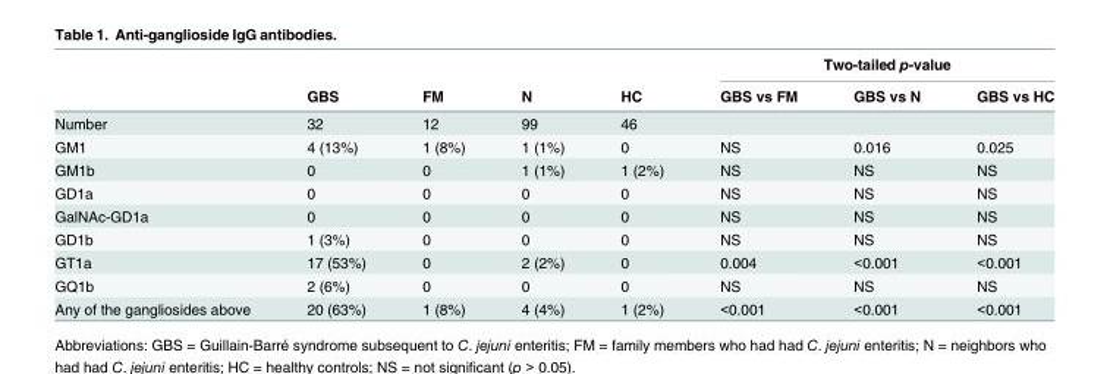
<table><thead><tr><td rowspan="2"></td><td rowspan="2">GBS</td><td rowspan="2">FM</td><td rowspan="2">N</td><td rowspan="2">HC</td><td colspan="3">Two-tailed p-value</td></tr><tr><td>GBS vs FM</td><td>GBS vs N</td><td>GBS vs HC</td></tr></thead><tbody><tr><td>Number</td><td>32</td><td>12</td><td>99</td><td>46</td><td></td><td></td><td></td></tr><tr><td>GM1</td><td>4 (13%)</td><td>1 (8%)</td><td>1 (1%)</td><td>0</td><td>NS</td><td>0.016</td><td>0.025</td></tr><tr><td>GM1b</td><td>0</td><td>0</td><td>1 (1%)</td><td>1 (2%)</td><td>NS</td><td>NS</td><td>NS</td></tr><tr><td>GD1a</td><td>0</td><td>0</td><td>0</td><td>0</td><td>NS</td><td>NS</td><td>NS</td></tr><tr><td>GalNAc-GD1a</td><td>0</td><td>0</td><td>0</td><td>0</td><td>NS</td><td>NS</td><td>NS</td></tr><tr><td>GD1b</td><td>1 (3%)</td><td>0</td><td>0</td><td>0</td><td>NS</td><td>NS</td><td>NS</td></tr><tr><td>GT1a</td><td>17 (53%)</td><td>0</td><td>2 (2%)</td><td>0</td><td>0.004</td><td>&lt;0.001</td><td>&lt;0.001</td></tr><tr><td>GQ1b</td><td>2 (6%)</td><td>0</td><td>0</td><td>0</td><td>NS</td><td>NS</td><td>NS</td></tr><tr><td>Any of the gangliosides above</td><td>20 (63%)</td><td>1 (8%)</td><td>4 (4%)</td><td>1 (2%)</td><td>&lt;0.001</td><td>&lt;0.001</td><td>&lt;0.001</td></tr></tbody></table>